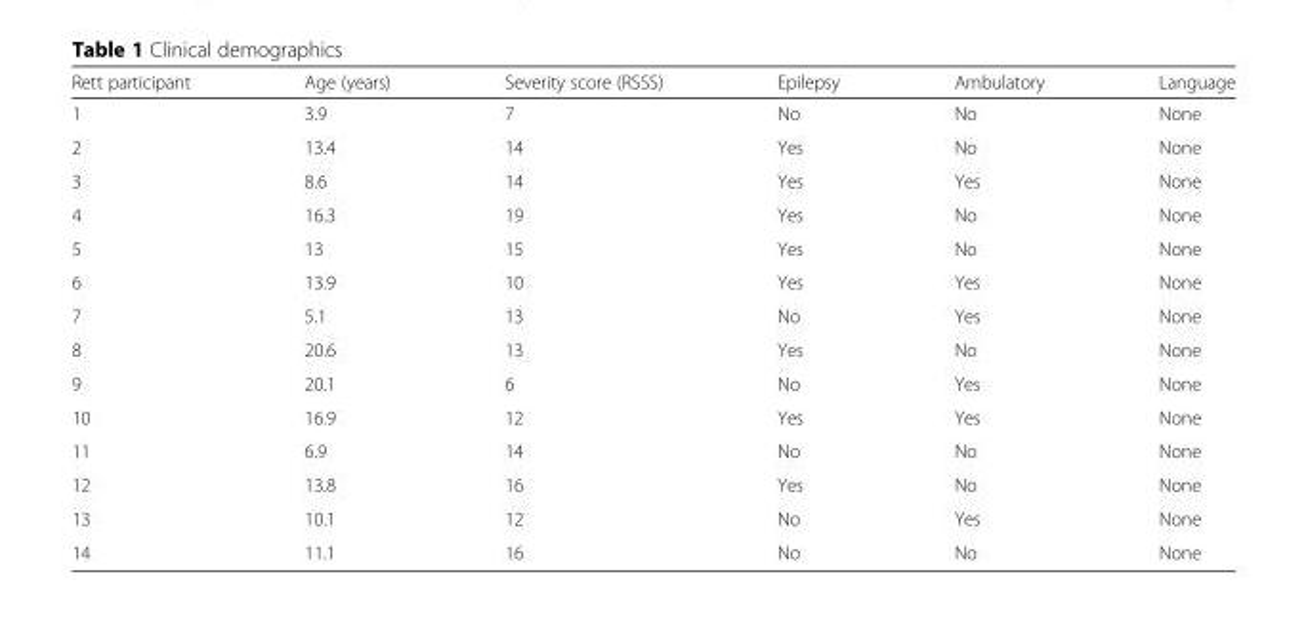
<table><thead><tr><td>Rett participant</td><td>Age (years)</td><td>Severity score (RSSS)</td><td>Epilepsy</td><td>Ambulatory</td><td>Language</td></tr></thead><tbody><tr><td>1</td><td>3.9</td><td>7</td><td>No</td><td>No</td><td>None</td></tr><tr><td>2</td><td>13.4</td><td>14</td><td>Yes</td><td>No</td><td>None</td></tr><tr><td>3</td><td>8.6</td><td>14</td><td>Yes</td><td>Yes</td><td>None</td></tr><tr><td>4</td><td>16.3</td><td>19</td><td>Yes</td><td>No</td><td>None</td></tr><tr><td>5</td><td>13</td><td>15</td><td>Yes</td><td>No</td><td>None</td></tr><tr><td>6</td><td>13.9</td><td>10</td><td>Yes</td><td>Yes</td><td>None</td></tr><tr><td>7</td><td>5.1</td><td>13</td><td>No</td><td>Yes</td><td>None</td></tr><tr><td>8</td><td>20.6</td><td>13</td><td>Yes</td><td>No</td><td>None</td></tr><tr><td>9</td><td>20.1</td><td>6</td><td>No</td><td>Yes</td><td>None</td></tr><tr><td>10</td><td>16.9</td><td>12</td><td>Yes</td><td>Yes</td><td>None</td></tr><tr><td>11</td><td>6.9</td><td>14</td><td>No</td><td>No</td><td>None</td></tr><tr><td>12</td><td>13.8</td><td>16</td><td>Yes</td><td>No</td><td>None</td></tr><tr><td>13</td><td>10.1</td><td>12</td><td>No</td><td>Yes</td><td>None</td></tr><tr><td>14</td><td>11.1</td><td>16</td><td>No</td><td>No</td><td>None</td></tr></tbody></table>